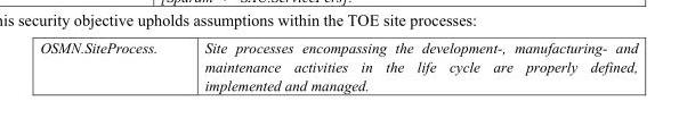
<table><tbody><tr><td>OSMN.SiteProcess.</td><td>Site processes encompassing the development-, manufacturing- and maintenance activities in the life cycle are properly defined, implemented and managed.</td></tr></tbody></table>